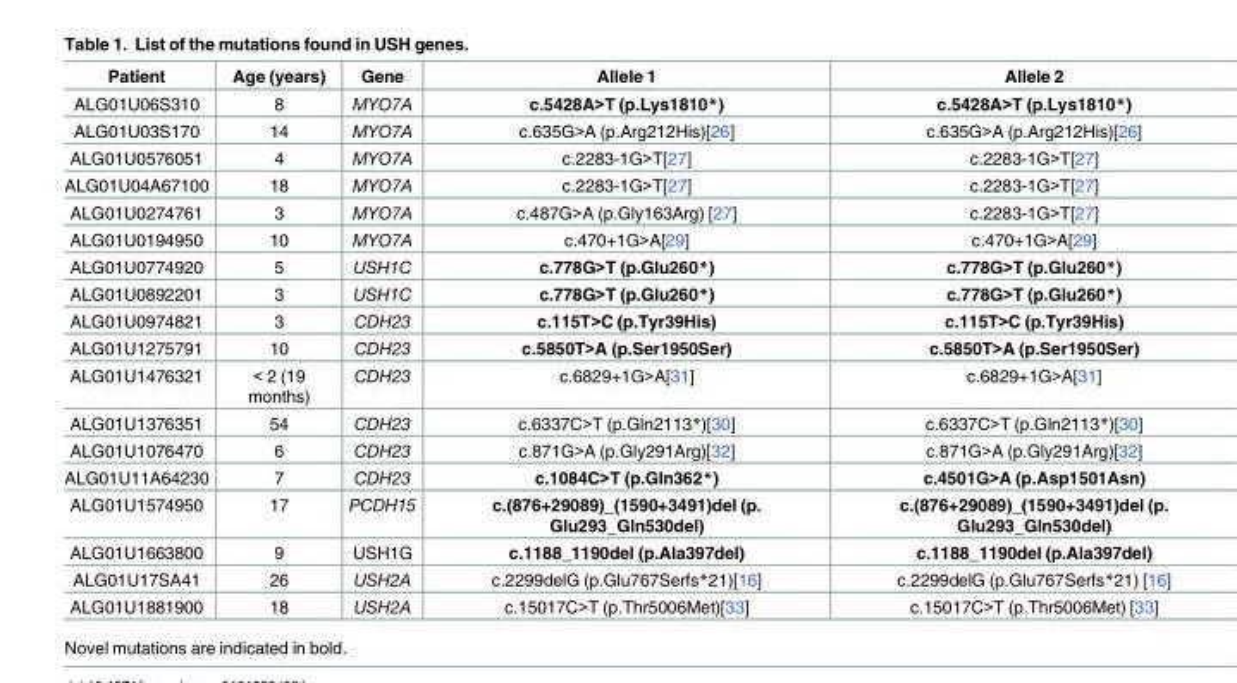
<table><thead><tr><td>Patient</td><td>Age (years)</td><td>Gene</td><td>Allele 1</td><td>Allele 2</td></tr></thead><tbody><tr><td>ALG01U06S310</td><td>8</td><td>MYO7A</td><td>c.5428A&gt;T (p.Lys1810*)</td><td>c.5428A&gt;T (p.Lys1810*)</td></tr><tr><td>ALG01U03S170</td><td>14</td><td>MYO7A</td><td>c.635G&gt;A (p.Arg212His)[26]</td><td>c.635G&gt;A (p.Arg212His)[26]</td></tr><tr><td>ALG01U0576051</td><td>4</td><td>MYO7A</td><td>c.2283-1G&gt;T[27]</td><td>c.2283-1G&gt;T[27]</td></tr><tr><td>ALG01U04A67100</td><td>18</td><td>MYO7A</td><td>c.2283-1G&gt;T[27]</td><td>c.2283-1G&gt;T[27]</td></tr><tr><td>ALG01U0274761</td><td>3</td><td>MYO7A</td><td>c.487G&gt;A (p.Gly163Arg) [27]</td><td>c.2283-1G&gt;T[27]</td></tr><tr><td>ALG01U0194950</td><td>10</td><td>MYO7A</td><td>c.470+1G&gt;A[29]</td><td>c.470+1G&gt;A[29]</td></tr><tr><td>ALG01U0774920</td><td>5</td><td>USH1C</td><td>c.778G&gt;T (p.Glu260*)</td><td>c.778G&gt;T (p.Glu260*)</td></tr><tr><td>ALG01U0892201</td><td>3</td><td>USH1C</td><td>c.778G&gt;T (p.Glu260*)</td><td>c.778G&gt;T (p.Glu260*)</td></tr><tr><td>ALG01U0974821</td><td>3</td><td>CDH23</td><td>c.115T&gt;C (p.Tyr39His)</td><td>c.115T&gt;C (p.Tyr39His)</td></tr><tr><td>ALG01U1275791</td><td>10</td><td>CDH23</td><td>c.5850T&gt;A (p.Ser1950Ser)</td><td>c.5850T&gt;A (p.Ser1950Ser)</td></tr><tr><td>ALG01U1476321</td><td>&lt; 2 (19 months)</td><td>CDH23</td><td>c.6829+1G&gt;A[31]</td><td>c.6829+1G&gt;A[31]</td></tr><tr><td>ALG01U1376351</td><td>54</td><td>CDH23</td><td>c.6337C&gt;T (p.Gln2113*)[30]</td><td>c.6337C&gt;T (p.Gln2113*)[30]</td></tr><tr><td>ALG01U1076470</td><td>6</td><td>CDH23</td><td>c.871G&gt;A (p.Gly291Arg)[32]</td><td>c.871G&gt;A (p.Gly291Arg)[32]</td></tr><tr><td>ALG01U11A64230</td><td>7</td><td>CDH23</td><td>c.1084C&gt;T (p.Gln362*)</td><td>c.4501G&gt;A (p.Asp1501Asn)</td></tr><tr><td>ALG01U1574950</td><td>17</td><td>PCDH15</td><td>c.(876+29089)_(1590+3491)del (p. Glu293_Gln530del)</td><td>c.(876+29089)_(1590+3491)del (p. Glu293_Gln530del)</td></tr><tr><td>ALG01U1663800</td><td>9</td><td>USH1G</td><td>c.1188_1190del (p.Ala397del)</td><td>c.1188_1190del (p.Ala397del)</td></tr><tr><td>ALG01U17SA41</td><td>26</td><td>USH2A</td><td>c.2299delG (p.Glu767Serfs*21)[16]</td><td>c.2299delG (p.Glu767Serfs*21) [16]</td></tr><tr><td>ALG01U1881900</td><td>18</td><td>USH2A</td><td>c.15017C&gt;T (p.Thr5006Met)[33]</td><td>c.15017C&gt;T (p.Thr5006Met) [33]</td></tr></tbody></table>